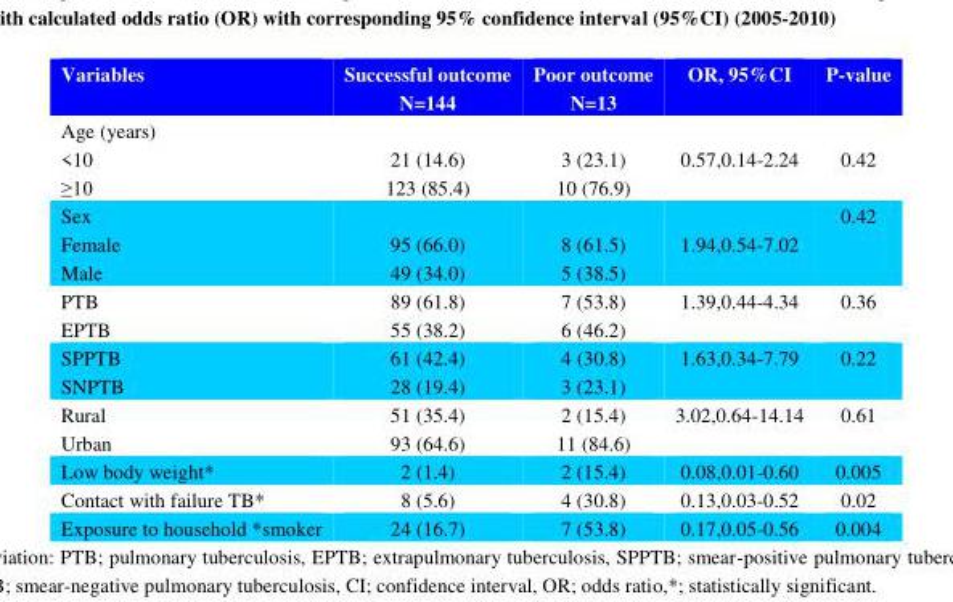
<table><thead><tr><td>Variables</td><td>Successful outcome N=144</td><td>Poor outcome N=13</td><td>OR, 95%CI</td><td>P-value</td></tr></thead><tbody><tr><td>Age (years) &lt;10 ≥10</td><td>21 (14.6) 123 (85.4)</td><td>3 (23.1) 10 (76.9)</td><td>0.57,0.14-2.24</td><td>0.42</td></tr><tr><td>Sex Female Male</td><td>95 (66.0) 49 (34.0)</td><td>8 (61.5) 5 (38.5)</td><td>1.94,0.54-7.02</td><td>0.42</td></tr><tr><td>PTB EPTB</td><td>89 (61.8) 55 (38.2)</td><td>7 (53.8) 6 (46.2)</td><td>1.39,0.44-4.34</td><td>0.36</td></tr><tr><td>SPPTB SNPTB</td><td>61 (42.4) 28 (19.4)</td><td>4 (30.8) 3 (23.1)</td><td>1.63,0.34-7.79</td><td>0.22</td></tr><tr><td>Rural Urban</td><td>51 (35.4) 93 (64.6)</td><td>2 (15.4) 11 (84.6)</td><td>3.02,0.64-14.14</td><td>0.61</td></tr><tr><td>Low body weight*</td><td>2 (1.4)</td><td>2 (15.4)</td><td>0.08,0.01-0.60</td><td>0.005</td></tr><tr><td>Contact with failure TB*</td><td>8 (5.6)</td><td>4 (30.8)</td><td>0.13,0.03-0.52</td><td>0.02</td></tr><tr><td>Exposure to household *smoker</td><td>24 (16.7)</td><td>7 (53.8)</td><td>0.17,0.05-0.56</td><td>0.004</td></tr></tbody></table>